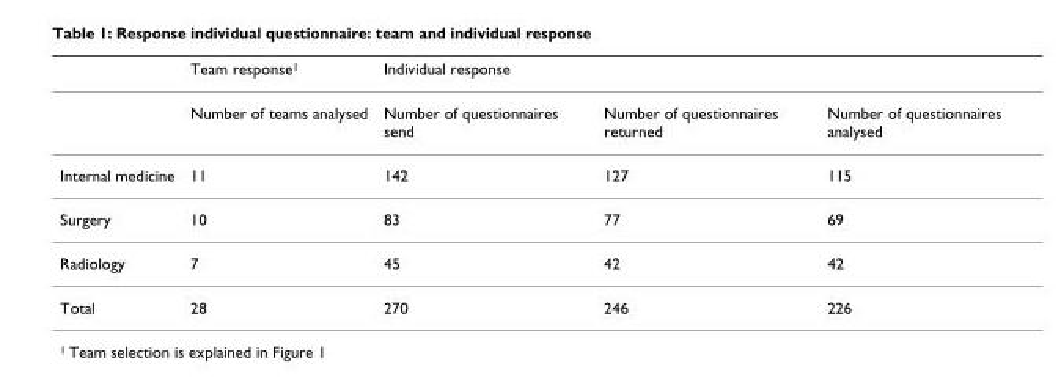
<table><thead><tr><td rowspan="2"></td><td rowspan="2">Team response1 Number of teams analysed</td><td colspan="3">Individual response</td></tr><tr><td>Number of questionnaires send</td><td>Number of questionnaires returned</td><td>Number of questionnaires analysed</td></tr></thead><tbody><tr><td>Internal medicine</td><td>11</td><td>142</td><td>127</td><td>115</td></tr><tr><td>Surgery</td><td>10</td><td>83</td><td>77</td><td>69</td></tr><tr><td>Radiology</td><td>7</td><td>45</td><td>42</td><td>42</td></tr><tr><td>Total</td><td>28</td><td>270</td><td>246</td><td>226</td></tr></tbody></table>